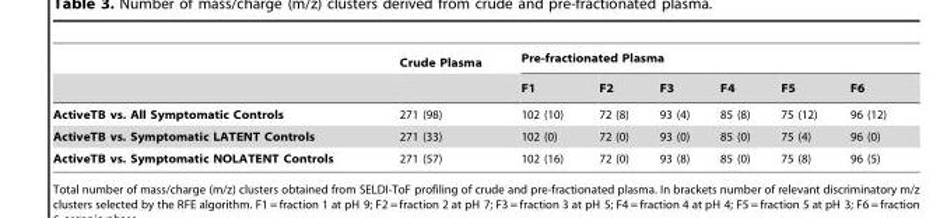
<table><thead><tr><td rowspan="2"></td><td rowspan="2">Crude Plasma</td><td colspan="6">Pre-fractionated Plasma</td></tr><tr><td>F1</td><td>F2</td><td>F3</td><td>F4</td><td>F5</td><td>F6</td></tr></thead><tbody><tr><td>ActiveTB vs. All Symptomatic Controls</td><td>271 (98)</td><td>102 (10)</td><td>72 (8)</td><td>93 (4)</td><td>85 (8)</td><td>75 (12)</td><td>96 (12)</td></tr><tr><td>ActiveTB vs. Symptomatic LATENT Controls</td><td>271 (33)</td><td>102 (0)</td><td>72 (0)</td><td>93 (0)</td><td>85 (0)</td><td>75 (4)</td><td>96 (0)</td></tr><tr><td>ActiveTB vs. Symptomatic NOLATENT Controls</td><td>271 (57)</td><td>102 (16)</td><td>72 (0)</td><td>93 (8)</td><td>85 (0)</td><td>75 (8)</td><td>96 (5)</td></tr></tbody></table>